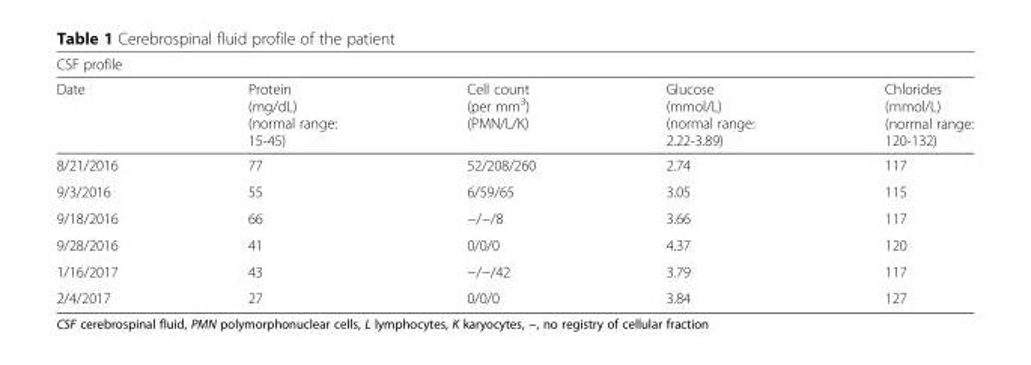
<table><thead><tr><td colspan="5">CSF profile</td></tr><tr><td>Date</td><td>Protein (mg/dL) (normal range: 15-45)</td><td>Cell count (per mm<sup>3</sup>) (PMN/L/K)</td><td>Glucose (mmol/L) (normal range: 2.22-3.89)</td><td>Chlorides (mmol/L) (normal range: 120-132)</td></tr></thead><tbody><tr><td>8/21/2016</td><td>77</td><td>52/208/260</td><td>2.74</td><td>117</td></tr><tr><td>9/3/2016</td><td>55</td><td>6/59/65</td><td>3.05</td><td>115</td></tr><tr><td>9/18/2016</td><td>66</td><td>−/−/8</td><td>3.66</td><td>117</td></tr><tr><td>9/28/2016</td><td>41</td><td>0/0/0</td><td>4.37</td><td>120</td></tr><tr><td>1/16/2017</td><td>43</td><td>−/−/42</td><td>3.79</td><td>117</td></tr><tr><td>2/4/2017</td><td>27</td><td>0/0/0</td><td>3.84</td><td>127</td></tr></tbody></table>